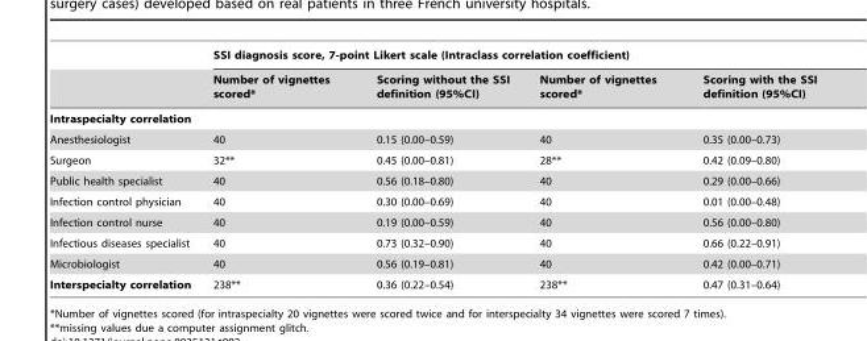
<table><thead><tr><td rowspan="2"></td><td colspan="4">SSI diagnosis score, 7-point Likert scale (Intraclass correlation coefficient)</td></tr><tr><td>Number of vignettes scored*</td><td>Scoring without the SSI definition (95%CI)</td><td>Number of vignettes scored*</td><td>Scoring with the SSI definition (95%CI)</td></tr></thead><tbody><tr><td colspan="5">Intraspecialty correlation</td></tr><tr><td>Anesthesiologist</td><td>40</td><td>0.15 (0.00–0.59)</td><td>40</td><td>0.35 (0.00–0.73)</td></tr><tr><td>Surgeon</td><td>32**</td><td>0.45 (0.00–0.81)</td><td>28**</td><td>0.42 (0.09–0.80)</td></tr><tr><td>Public health specialist</td><td>40</td><td>0.56 (0.18–0.80)</td><td>40</td><td>0.29 (0.00–0.66)</td></tr><tr><td>Infection control physician</td><td>40</td><td>0.30 (0.00–0.69)</td><td>40</td><td>0.01 (0.00–0.48)</td></tr><tr><td>Infection control nurse</td><td>40</td><td>0.19 (0.00–0.59)</td><td>40</td><td>0.56 (0.00–0.80)</td></tr><tr><td>Infectious diseases specialist</td><td>40</td><td>0.73 (0.32–0.90)</td><td>40</td><td>0.66 (0.22–0.91)</td></tr><tr><td>Microbiologist</td><td>40</td><td>0.56 (0.19–0.81)</td><td>40</td><td>0.42 (0.00–0.71)</td></tr><tr><td>Interspecialty correlation</td><td>238**</td><td>0.36 (0.22–0.54)</td><td>238**</td><td>0.47 (0.31–0.64)</td></tr></tbody></table>